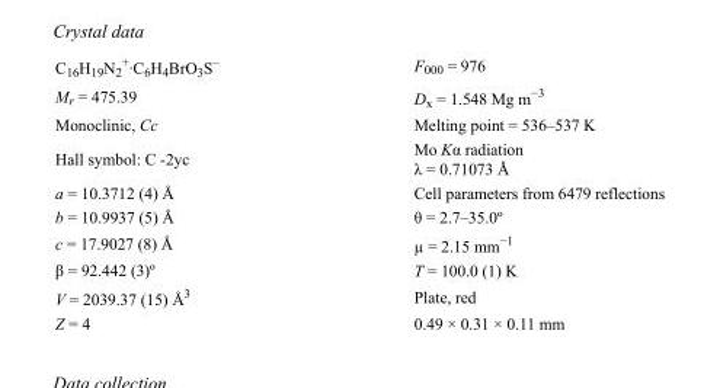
<table><tbody><tr><td>C<sub>16</sub>H<sub>19</sub>N<sub>2</sub> <sup>+</sup>·C<sub>6</sub>H<sub>4</sub>BrO<sub>3</sub>S<sup>–</sup></td><td>F000 = 976</td></tr><tr><td>M<sub>r</sub> = 475.39</td><td>D<sub>x</sub> = 1.548 Mg m<sup>−3</sup></td></tr><tr><td>Monoclinic, Cc</td><td>Melting point = 536–537 K</td></tr><tr><td>Hall symbol: C -2yc</td><td>Mo Kα radiation λ = 0.71073 Å</td></tr><tr><td>a = 10.3712 (4) Å</td><td>Cell parameters from 6479 reflections</td></tr><tr><td>b = 10.9937 (5) Å</td><td>θ = 2.7–35.0º</td></tr><tr><td>c = 17.9027 (8) Å</td><td>µ = 2.15 mm<sup>−1</sup></td></tr><tr><td>β = 92.442 (3)º</td><td>T = 100.0 (1) K</td></tr><tr><td>V = 2039.37 (15) Å<sup>3</sup></td><td>Plate, red</td></tr><tr><td>Z = 4</td><td>0.49 × 0.31 × 0.11 mm</td></tr></tbody></table>